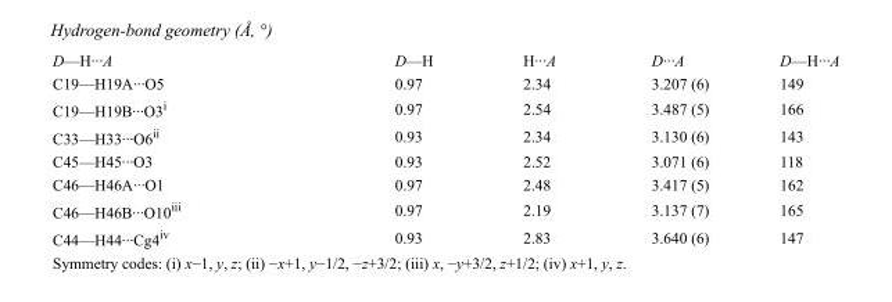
<table><tbody><tr><td>D—H···A</td><td>D—H</td><td>H···A</td><td>D···A</td><td>D—H···A</td></tr><tr><td>C19—H19A···O5</td><td>0.97</td><td>2.34</td><td>3.207 (6)</td><td>149</td></tr><tr><td>C19—H19B···O3<sup>i</sup></td><td>0.97</td><td>2.54</td><td>3.487 (5)</td><td>166</td></tr><tr><td>C33—H33···O6<sup>ii</sup></td><td>0.93</td><td>2.34</td><td>3.130 (6)</td><td>143</td></tr><tr><td>C45—H45···O3</td><td>0.93</td><td>2.52</td><td>3.071 (6)</td><td>118</td></tr><tr><td>C46—H46A···O1</td><td>0.97</td><td>2.48</td><td>3.417 (5)</td><td>162</td></tr><tr><td>C46—H46B···O10<sup>iii</sup></td><td>0.97</td><td>2.19</td><td>3.137 (7)</td><td>165</td></tr><tr><td>C44—H44···Cg4<sup>iv</sup></td><td>0.93</td><td>2.83</td><td>3.640 (6)</td><td>147</td></tr></tbody></table>